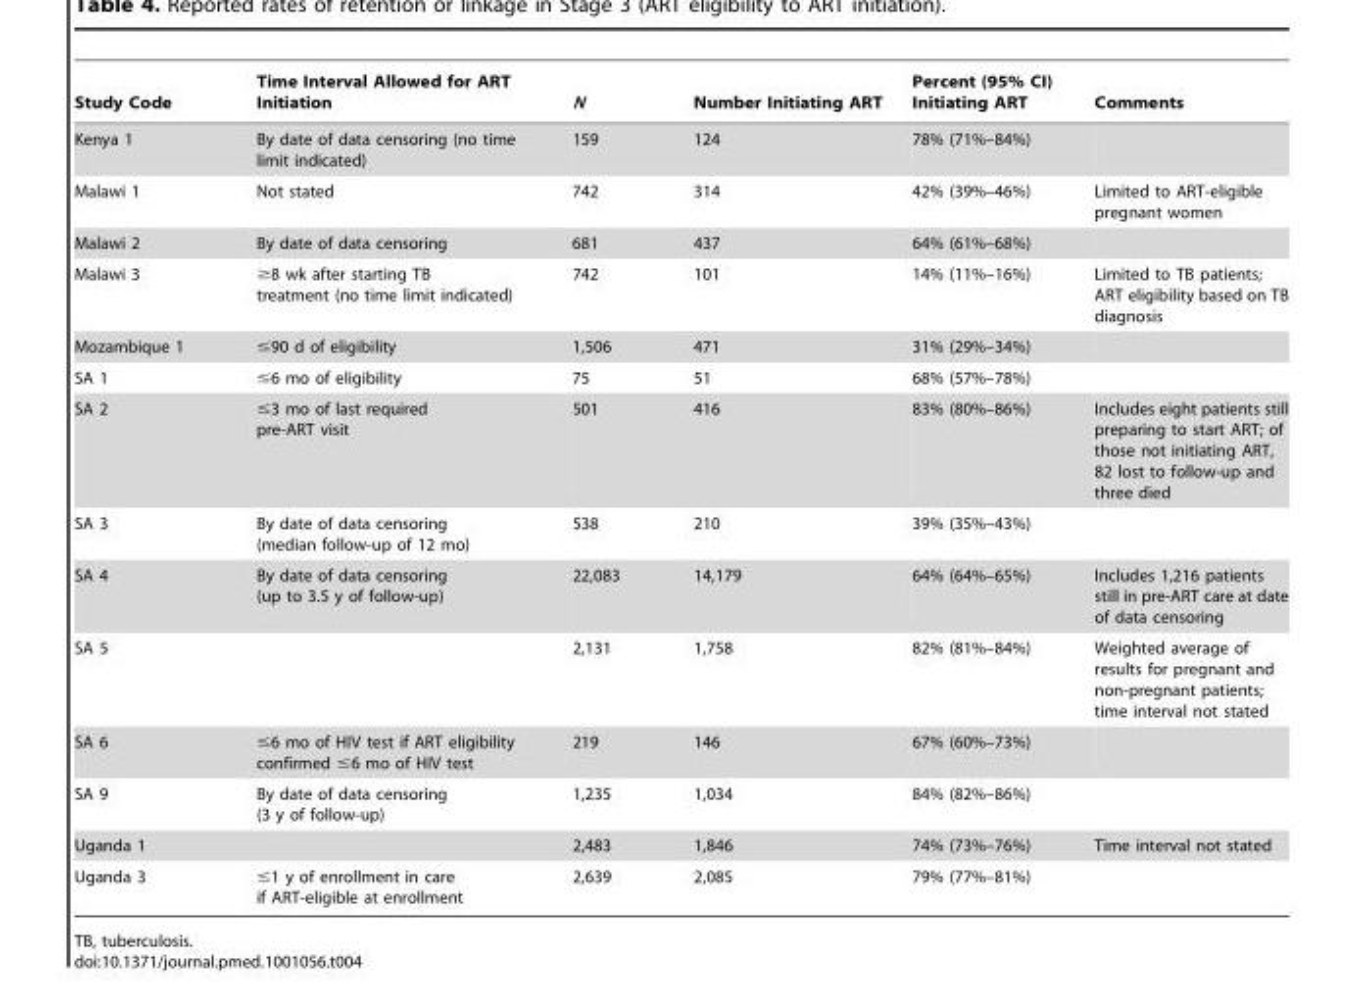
<table><thead><tr><td>Study Code</td><td>Time Interval Allowed for ART Initiation</td><td>N</td><td>Number Initiating ART</td><td>Percent (95% CI) Initiating ART</td><td>Comments</td></tr></thead><tbody><tr><td>Kenya 1</td><td>By date of data censoring (no time limit indicated)</td><td>159</td><td>124</td><td>78% (71%–84%)</td><td></td></tr><tr><td>Malawi 1</td><td>Not stated</td><td>742</td><td>314</td><td>42% (39%–46%)</td><td>Limited to ART-eligible pregnant women</td></tr><tr><td>Malawi 2</td><td>By date of data censoring</td><td>681</td><td>437</td><td>64% (61%–68%)</td><td></td></tr><tr><td>Malawi 3</td><td>≥8 wk after starting TB treatment (no time limit indicated)</td><td>742</td><td>101</td><td>14% (11%–16%)</td><td>Limited to TB patients; ART eligibility based on TB diagnosis</td></tr><tr><td>Mozambique 1</td><td>≤90 d of eligibility</td><td>1,506</td><td>471</td><td>31% (29%–34%)</td><td></td></tr><tr><td>SA 1</td><td>≤6 mo of eligibility</td><td>75</td><td>51</td><td>68% (57%–78%)</td><td></td></tr><tr><td>SA 2</td><td>≤3 mo of last required pre-ART visit</td><td>501</td><td>416</td><td>83% (80%–86%)</td><td>Includes eight patients still preparing to start ART; of those not initiating ART, 82 lost to follow-up and three died</td></tr><tr><td>SA 3</td><td>By date of data censoring (median follow-up of 12 mo)</td><td>538</td><td>210</td><td>39% (35%–43%)</td><td></td></tr><tr><td>SA 4</td><td>By date of data censoring (up to 3.5 y of follow-up)</td><td>22,083</td><td>14,179</td><td>64% (64%–65%)</td><td>Includes 1,216 patients still in pre-ART care at date of data censoring</td></tr><tr><td>SA 5</td><td></td><td>2,131</td><td>1,758</td><td>82% (81%–84%)</td><td>Weighted average of results for pregnant and non-pregnant patients; time interval not stated</td></tr><tr><td>SA 6</td><td>≤6 mo of HIV test if ART eligibility confirmed ≤6 mo of HIV test</td><td>219</td><td>146</td><td>67% (60%–73%)</td><td></td></tr><tr><td>SA 9</td><td>By date of data censoring (3 y of follow-up)</td><td>1,235</td><td>1,034</td><td>84% (82%–86%)</td><td></td></tr><tr><td>Uganda 1</td><td></td><td>2,483</td><td>1,846</td><td>74% (73%–76%)</td><td>Time interval not stated</td></tr><tr><td>Uganda 3</td><td>≤1 y of enrollment in care if ART-eligible at enrollment</td><td>2,639</td><td>2,085</td><td>79% (77%–81%)</td><td></td></tr></tbody></table>